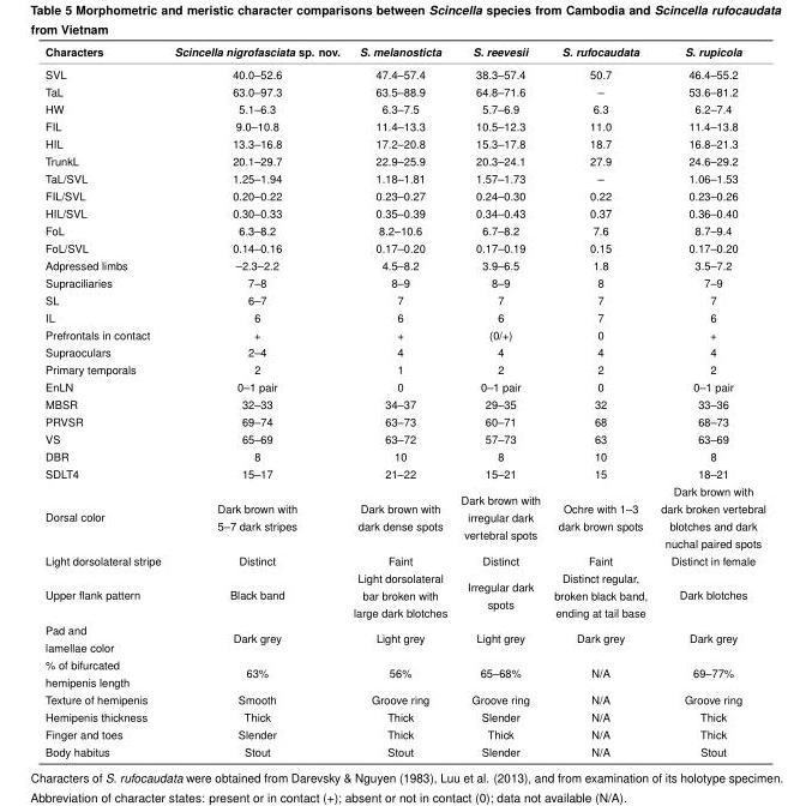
<table><thead><tr><td>Characters</td><td>Scincella nigrofasciata sp. nov.</td><td>S. melanosticta</td><td>S. reevesii</td><td>S. rufocaudata</td><td>S. rupicola</td></tr></thead><tbody><tr><td>SVL</td><td>40.0–52.6</td><td>47.4–57.4</td><td>38.3–57.4</td><td>50.7</td><td>46.4–55.2</td></tr><tr><td>TaL</td><td>63.0–97.3</td><td>63.5–88.9</td><td>64.8–71.6</td><td>–</td><td>53.6–81.2</td></tr><tr><td>HW</td><td>5.1–6.3</td><td>6.3–7.5</td><td>5.7–6.9</td><td>6.3</td><td>6.2–7.4</td></tr><tr><td>FIL</td><td>9.0–10.8</td><td>11.4–13.3</td><td>10.5–12.3</td><td>11.0</td><td>11.4–13.8</td></tr><tr><td>HIL</td><td>13.3–16.8</td><td>17.2–20.8</td><td>15.3–17.8</td><td>18.7</td><td>16.8–21.3</td></tr><tr><td>TrunkL</td><td>20.1–29.7</td><td>22.9–25.9</td><td>20.3–24.1</td><td>27.9</td><td>24.6–29.2</td></tr><tr><td>TaL/SVL</td><td>1.25–1.94</td><td>1.18–1.81</td><td>1.57–1.73</td><td>–</td><td>1.06–1.53</td></tr><tr><td>FIL/SVL</td><td>0.20–0.22</td><td>0.23–0.27</td><td>0.24–0.30</td><td>0.22</td><td>0.23–0.26</td></tr><tr><td>HIL/SVL</td><td>0.30–0.33</td><td>0.35–0.39</td><td>0.34–0.43</td><td>0.37</td><td>0.36–0.40</td></tr><tr><td>FoL</td><td>6.3–8.2</td><td>8.2–10.6</td><td>6.7–8.2</td><td>7.6</td><td>8.7–9.4</td></tr><tr><td>FoL/SVL</td><td>0.14–0.16</td><td>0.17–0.20</td><td>0.17–0.19</td><td>0.15</td><td>0.17–0.20</td></tr><tr><td>Adpressed limbs</td><td>–2.3–2.2</td><td>4.5–8.2</td><td>3.9–6.5</td><td>1.8</td><td>3.5–7.2</td></tr><tr><td>Supraciliaries</td><td>7–8</td><td>8–9</td><td>8–9</td><td>8</td><td>7–9</td></tr><tr><td>SL</td><td>6–7</td><td>7</td><td>7</td><td>7</td><td>7</td></tr><tr><td>IL</td><td>6</td><td>6</td><td>6</td><td>7</td><td>6</td></tr><tr><td>Prefrontals in contact</td><td>+</td><td>+</td><td>(0/+)</td><td>0</td><td>+</td></tr><tr><td>Supraoculars</td><td>2–4</td><td>4</td><td>4</td><td>4</td><td>4</td></tr><tr><td>Primary temporals</td><td>2</td><td>1</td><td>2</td><td>2</td><td>2</td></tr><tr><td>EnLN</td><td>0–1 pair</td><td>0</td><td>0–1 pair</td><td>0</td><td>0–1 pair</td></tr><tr><td>MBSR</td><td>32–33</td><td>34–37</td><td>29–35</td><td>32</td><td>33–36</td></tr><tr><td>PRVSR</td><td>69–74</td><td>63–73</td><td>60–71</td><td>68</td><td>68–73</td></tr><tr><td>VS</td><td>65–69</td><td>63–72</td><td>57–73</td><td>63</td><td>63–69</td></tr><tr><td>DBR</td><td>8</td><td>10</td><td>8</td><td>10</td><td>8</td></tr><tr><td>SDLT4</td><td>15–17</td><td>21–22</td><td>15–21</td><td>15</td><td>18–21</td></tr><tr><td>Dorsal color</td><td>Dark brown with 5–7 dark stripes</td><td>Dark brown with dark dense spots</td><td>Dark brown with irregular dark vertebral spots</td><td>Ochre with 1–3 dark brown spots</td><td>Dark brown with dark broken vertebral blotches and dark nuchal paired spots</td></tr><tr><td>Light dorsolateral stripe</td><td>Distinct</td><td>Faint</td><td>Distinct</td><td>Faint</td><td>Distinct in female</td></tr><tr><td>Upper flank pattern</td><td>Black band</td><td>Light dorsolateral bar broken with large dark blotches</td><td>Irregular dark spots</td><td>Distinct regular, broken black band, ending at tail base</td><td>Dark blotches</td></tr><tr><td>Pad and lamellae color</td><td>Dark grey</td><td>Light grey</td><td>Light grey</td><td>Dark grey</td><td>Dark grey</td></tr><tr><td>% of bifurcated hemipenis length</td><td>63%</td><td>56%</td><td>65–68%</td><td>N/A</td><td>69–77%</td></tr><tr><td>Texture of hemipenis</td><td>Smooth</td><td>Groove ring</td><td>Groove ring</td><td>N/A</td><td>Groove ring</td></tr><tr><td>Hemipenis thickness</td><td>Thick</td><td>Thick</td><td>Slender</td><td>N/A</td><td>Thick</td></tr><tr><td>Finger and toes</td><td>Slender</td><td>Thick</td><td>Thick</td><td>N/A</td><td>Thick</td></tr><tr><td>Body habitus</td><td>Stout</td><td>Stout</td><td>Slender</td><td>N/A</td><td>Stout</td></tr></tbody></table>